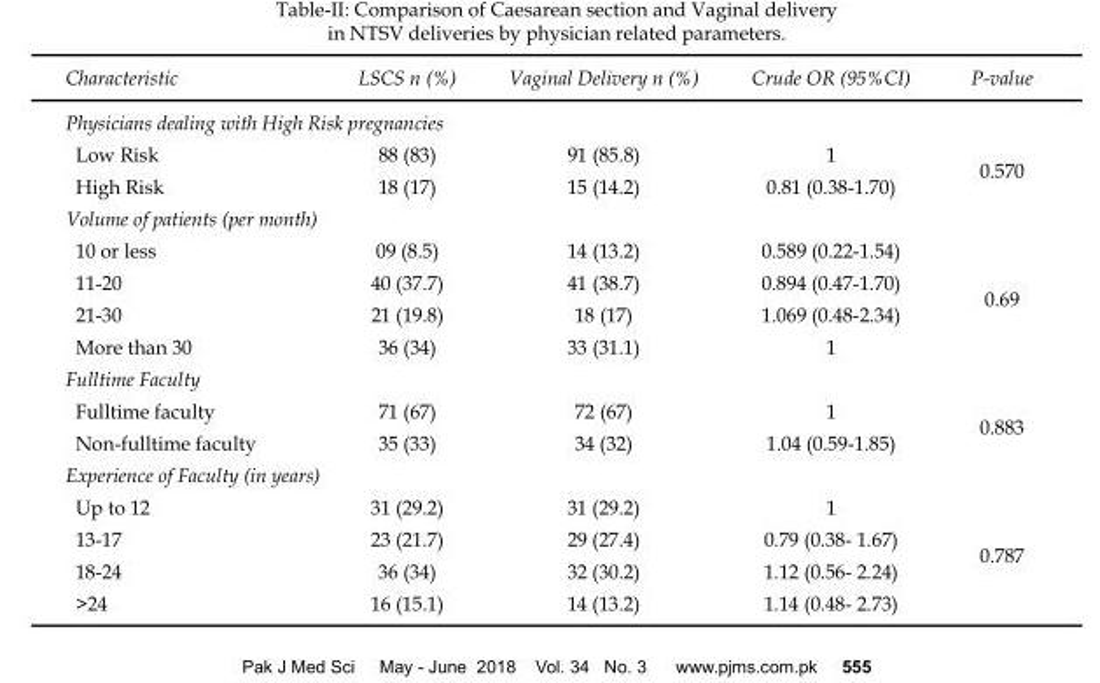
<table><thead><tr><td>Characteristic</td><td>LSCS n (%)</td><td>Vaginal Delivery n (%)</td><td>Crude OR (95%CI)</td><td>P-value</td></tr></thead><tbody><tr><td colspan="5">Physicians dealing with High Risk pregnancies</td></tr><tr><td>Low Risk</td><td>88 (83)</td><td>91 (85.8)</td><td>1</td><td rowspan="2">0.570</td></tr><tr><td>High Risk</td><td>18 (17)</td><td>15 (14.2)</td><td>0.81 (0.38-1.70)</td></tr><tr><td colspan="5">Volume of patients (per month)</td></tr><tr><td>10 or less</td><td>09 (8.5)</td><td>14 (13.2)</td><td>0.589 (0.22-1.54)</td><td rowspan="4">0.69</td></tr><tr><td>11-20</td><td>40 (37.7)</td><td>41 (38.7)</td><td>0.894 (0.47-1.70)</td></tr><tr><td>21-30</td><td>21 (19.8)</td><td>18 (17)</td><td>1.069 (0.48-2.34)</td></tr><tr><td>More than 30</td><td>36 (34)</td><td>33 (31.1)</td><td>1</td></tr><tr><td colspan="5">Fulltime Faculty</td></tr><tr><td>Fulltime faculty</td><td>71 (67)</td><td>72 (67)</td><td>1</td><td rowspan="2">0.883</td></tr><tr><td>Non-fulltime faculty</td><td>35 (33)</td><td>34 (32)</td><td>1.04 (0.59-1.85)</td></tr><tr><td colspan="5">Experience of Faculty (in years)</td></tr><tr><td>Up to 12</td><td>31 (29.2)</td><td>31 (29.2)</td><td>1</td><td rowspan="4">0.787</td></tr><tr><td>13-17</td><td>23 (21.7)</td><td>29 (27.4)</td><td>0.79 (0.38- 1.67)</td></tr><tr><td>18-24</td><td>36 (34)</td><td>32 (30.2)</td><td>1.12 (0.56- 2.24)</td></tr><tr><td>&gt;24</td><td>16 (15.1)</td><td>14 (13.2)</td><td>1.14 (0.48- 2.73)</td></tr></tbody></table>